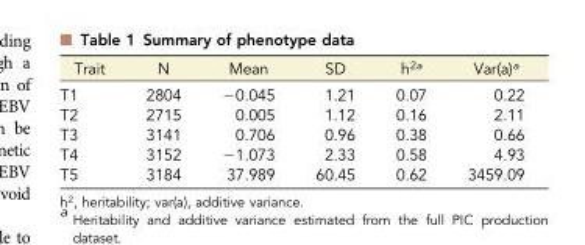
<table><thead><tr><td>Trait</td><td>N</td><td>Mean</td><td>SD</td><td>h<sup>2a</sup></td><td>Var(a)<sup>a</sup></td></tr></thead><tbody><tr><td>T1</td><td>2804</td><td>−0.045</td><td>1.21</td><td>0.07</td><td>0.22</td></tr><tr><td>T2</td><td>2715</td><td>0.005</td><td>1.12</td><td>0.16</td><td>2.11</td></tr><tr><td>T3</td><td>3141</td><td>0.706</td><td>0.96</td><td>0.38</td><td>0.66</td></tr><tr><td>T4</td><td>3152</td><td>−1.073</td><td>2.33</td><td>0.58</td><td>4.93</td></tr><tr><td>T5</td><td>3184</td><td>37.989</td><td>60.45</td><td>0.62</td><td>3459.09</td></tr></tbody></table>